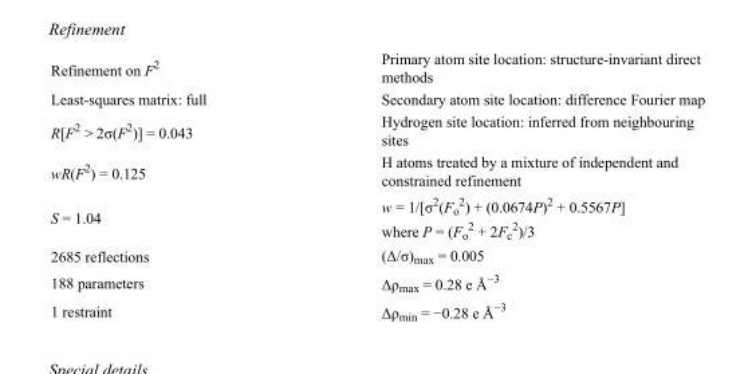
<table><tbody><tr><td>Refinement on F<sup>2</sup></td><td>Primary atom site location: structure-invariant direct methods</td></tr><tr><td>Least-squares matrix: full</td><td>Secondary atom site location: difference Fourier map</td></tr><tr><td>R[F<sup>2</sup> &gt; 2σ(F<sup>2</sup>)] = 0.043</td><td>Hydrogen site location: inferred from neighbouring sites</td></tr><tr><td>wR(F<sup>2</sup>) = 0.125</td><td>H atoms treated by a mixture of independent and constrained refinement</td></tr><tr><td>S = 1.04</td><td>w = 1/[σ<sup>2</sup>(F<sub>o</sub> <sup>2</sup>) + (0.0674P)<sup>2</sup> + 0.5567P] where P = (F<sub>o</sub> <sup>2</sup> + 2F<sub>c</sub> <sup>2</sup>)/3</td></tr><tr><td>2685 reflections</td><td>(Δ/σ)<sub>max</sub> = 0.005</td></tr><tr><td>188 parameters</td><td>Δρ<sub>max</sub> = 0.28 e Å<sup>−3</sup></td></tr><tr><td>1 restraint</td><td>Δρ<sub>min</sub> = −0.28 e Å<sup>−3</sup></td></tr></tbody></table>